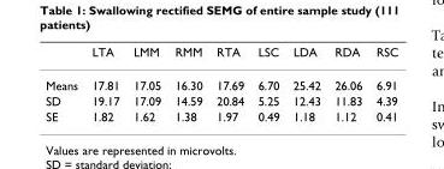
<table><thead><tr><td></td><td>LTA</td><td>LMM</td><td>RMM</td><td>RTA</td><td>LSC</td><td>LDA</td><td>RDA</td><td>RSC</td></tr></thead><tbody><tr><td>Means</td><td>17.81</td><td>17.05</td><td>16.30</td><td>17.69</td><td>6.70</td><td>25.42</td><td>26.06</td><td>6.91</td></tr><tr><td>SD</td><td>19.17</td><td>17.09</td><td>14.59</td><td>20.84</td><td>5.25</td><td>12.43</td><td>11.83</td><td>4.39</td></tr><tr><td>SE</td><td>1.82</td><td>1.62</td><td>1.38</td><td>1.97</td><td>0.49</td><td>1.18</td><td>1.12</td><td>0.41</td></tr></tbody></table>